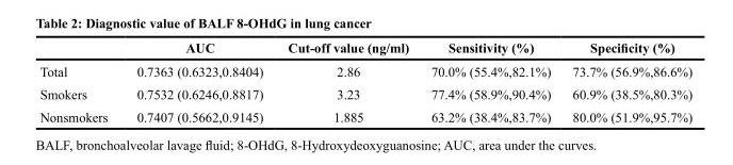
<table><thead><tr><td></td><td>AUC</td><td>Cut-off value (ng/ml)</td><td>Sensitivity (%)</td><td>Specificity (%)</td></tr></thead><tbody><tr><td>Total</td><td>0.7363 (0.6323,0.8404)</td><td>2.86</td><td>70.0% (55.4%,82.1%)</td><td>73.7% (56.9%,86.6%)</td></tr><tr><td>Smokers</td><td>0.7532 (0.6246,0.8817)</td><td>3.23</td><td>77.4% (58.9%,90.4%)</td><td>60.9% (38.5%,80.3%)</td></tr><tr><td>Nonsmokers</td><td>0.7407 (0.5662,0.9145)</td><td>1.885</td><td>63.2% (38.4%,83.7%)</td><td>80.0% (51.9%,95.7%)</td></tr></tbody></table>